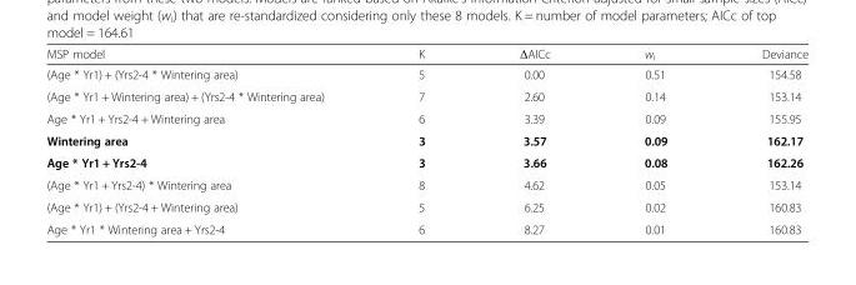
<table><thead><tr><td>MSP model</td><td>K</td><td>ΔAICc</td><td>w<sub>i</sub></td><td>Deviance</td></tr></thead><tbody><tr><td>(Age * Yr1) + (Yrs2-4 * Wintering area)</td><td>5</td><td>0.00</td><td>0.51</td><td>154.58</td></tr><tr><td>(Age * Yr1 + Wintering area) + (Yrs2-4 * Wintering area)</td><td>7</td><td>2.60</td><td>0.14</td><td>153.14</td></tr><tr><td>Age * Yr1 + Yrs2-4 + Wintering area</td><td>6</td><td>3.39</td><td>0.09</td><td>155.95</td></tr><tr><td>Wintering area</td><td>3</td><td>3.57</td><td>0.09</td><td>162.17</td></tr><tr><td>Age * Yr1 + Yrs2-4</td><td>3</td><td>3.66</td><td>0.08</td><td>162.26</td></tr><tr><td>(Age * Yr1 + Yrs2-4) * Wintering area</td><td>8</td><td>4.62</td><td>0.05</td><td>153.14</td></tr><tr><td>(Age * Yr1) + (Yrs2-4 + Wintering area)</td><td>5</td><td>6.25</td><td>0.02</td><td>160.83</td></tr><tr><td>Age * Yr1 * Wintering area + Yrs2-4</td><td>6</td><td>8.27</td><td>0.01</td><td>160.83</td></tr></tbody></table>